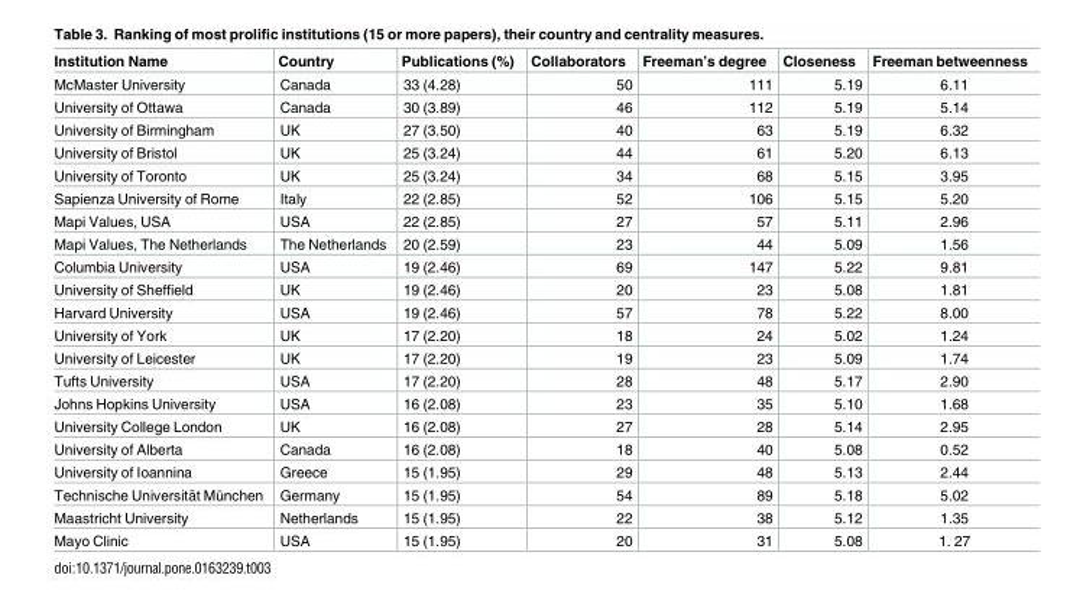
<table><thead><tr><td>Institution Name</td><td>Country</td><td>Publications (%)</td><td>Collaborators</td><td>Freeman’s degree</td><td>Closeness</td><td>Freeman betweenness</td></tr></thead><tbody><tr><td>McMaster University</td><td>Canada</td><td>33 (4.28)</td><td>50</td><td>111</td><td>5.19</td><td>6.11</td></tr><tr><td>University of Ottawa</td><td>Canada</td><td>30 (3.89)</td><td>46</td><td>112</td><td>5.19</td><td>5.14</td></tr><tr><td>University of Birmingham</td><td>UK</td><td>27 (3.50)</td><td>40</td><td>63</td><td>5.19</td><td>6.32</td></tr><tr><td>University of Bristol</td><td>UK</td><td>25 (3.24)</td><td>44</td><td>61</td><td>5.20</td><td>6.13</td></tr><tr><td>University of Toronto</td><td>UK</td><td>25 (3.24)</td><td>34</td><td>68</td><td>5.15</td><td>3.95</td></tr><tr><td>Sapienza University of Rome</td><td>Italy</td><td>22 (2.85)</td><td>52</td><td>106</td><td>5.15</td><td>5.20</td></tr><tr><td>Mapi Values, USA</td><td>USA</td><td>22 (2.85)</td><td>27</td><td>57</td><td>5.11</td><td>2.96</td></tr><tr><td>Mapi Values, The Netherlands</td><td>The Netherlands</td><td>20 (2.59)</td><td>23</td><td>44</td><td>5.09</td><td>1.56</td></tr><tr><td>Columbia University</td><td>USA</td><td>19 (2.46)</td><td>69</td><td>147</td><td>5.22</td><td>9.81</td></tr><tr><td>University of Sheffield</td><td>UK</td><td>19 (2.46)</td><td>20</td><td>23</td><td>5.08</td><td>1.81</td></tr><tr><td>Harvard University</td><td>USA</td><td>19 (2.46)</td><td>57</td><td>78</td><td>5.22</td><td>8.00</td></tr><tr><td>University of York</td><td>UK</td><td>17 (2.20)</td><td>18</td><td>24</td><td>5.02</td><td>1.24</td></tr><tr><td>University of Leicester</td><td>UK</td><td>17 (2.20)</td><td>19</td><td>23</td><td>5.09</td><td>1.74</td></tr><tr><td>Tufts University</td><td>USA</td><td>17 (2.20)</td><td>28</td><td>48</td><td>5.17</td><td>2.90</td></tr><tr><td>Johns Hopkins University</td><td>USA</td><td>16 (2.08)</td><td>23</td><td>35</td><td>5.10</td><td>1.68</td></tr><tr><td>University College London</td><td>UK</td><td>16 (2.08)</td><td>27</td><td>28</td><td>5.14</td><td>2.95</td></tr><tr><td>University of Alberta</td><td>Canada</td><td>16 (2.08)</td><td>18</td><td>40</td><td>5.08</td><td>0.52</td></tr><tr><td>University of Ioannina</td><td>Greece</td><td>15 (1.95)</td><td>29</td><td>48</td><td>5.13</td><td>2.44</td></tr><tr><td>Technische Universita¨t Mu¨nchen</td><td>Germany</td><td>15 (1.95)</td><td>54</td><td>89</td><td>5.18</td><td>5.02</td></tr><tr><td>Maastricht University</td><td>Netherlands</td><td>15 (1.95)</td><td>22</td><td>38</td><td>5.12</td><td>1.35</td></tr><tr><td>Mayo Clinic</td><td>USA</td><td>15 (1.95)</td><td>20</td><td>31</td><td>5.08</td><td>1. 27</td></tr></tbody></table>